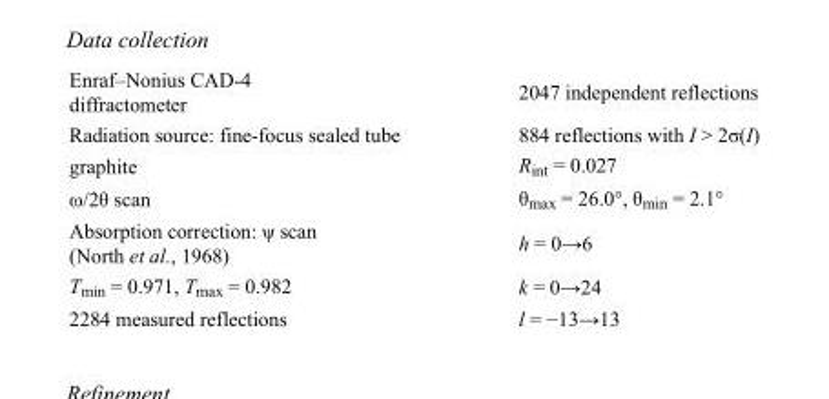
<table><tbody><tr><td>Enraf–Nonius CAD-4 diffractometer</td><td>2047 independent reflections</td></tr><tr><td>Radiation source: fine-focus sealed tube</td><td>884 reflections with I &gt; 2σ(I)</td></tr><tr><td>graphite</td><td>R<sub>int</sub> = 0.027</td></tr><tr><td>ω/2θ scan</td><td>θ<sub>max</sub> = 26.0°, θ<sub>min</sub> = 2.1°</td></tr><tr><td>Absorption correction: ψ scan (North et al., 1968)</td><td>h = 0→6</td></tr><tr><td>T<sub>min</sub> = 0.971, T<sub>max</sub> = 0.982</td><td>k = 0→24</td></tr><tr><td>2284 measured reflections</td><td>l = −13→13</td></tr></tbody></table>